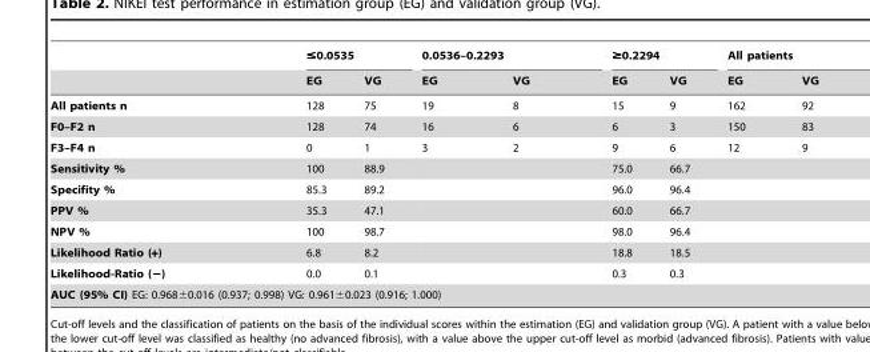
<table><thead><tr><td rowspan="2"></td><td colspan="2">≤0.0535</td><td colspan="2">0.0536–0.2293</td><td colspan="2">≥0.2294</td><td colspan="2">All patients</td></tr><tr><td>EG</td><td>VG</td><td>EG</td><td>VG</td><td>EG</td><td>VG</td><td>EG</td><td>VG</td></tr></thead><tbody><tr><td>All patients n</td><td>128</td><td>75</td><td>19</td><td>8</td><td>15</td><td>9</td><td>162</td><td>92</td></tr><tr><td>F0–F2 n</td><td>128</td><td>74</td><td>16</td><td>6</td><td>6</td><td>3</td><td>150</td><td>83</td></tr><tr><td>F3–F4 n</td><td>0</td><td>1</td><td>3</td><td>2</td><td>9</td><td>6</td><td>12</td><td>9</td></tr><tr><td>Sensitivity %</td><td>100</td><td>88.9</td><td></td><td></td><td>75.0</td><td>66.7</td><td></td><td></td></tr><tr><td>Specifity %</td><td>85.3</td><td>89.2</td><td></td><td></td><td>96.0</td><td>96.4</td><td></td><td></td></tr><tr><td>PPV %</td><td>35.3</td><td>47.1</td><td></td><td></td><td>60.0</td><td>66.7</td><td></td><td></td></tr><tr><td>NPV %</td><td>100</td><td>98.7</td><td></td><td></td><td>98.0</td><td>96.4</td><td></td><td></td></tr><tr><td>Likelihood Ratio (+)</td><td>6.8</td><td>8.2</td><td></td><td></td><td>18.8</td><td>18.5</td><td></td><td></td></tr><tr><td>Likelihood-Ratio (−)</td><td>0.0</td><td>0.1</td><td></td><td></td><td>0.3</td><td>0.3</td><td></td><td></td></tr><tr><td colspan="9">AUC (95% CI) EG: 0.968±0.016 (0.937; 0.998) VG: 0.961±0.023 (0.916; 1.000)</td></tr></tbody></table>